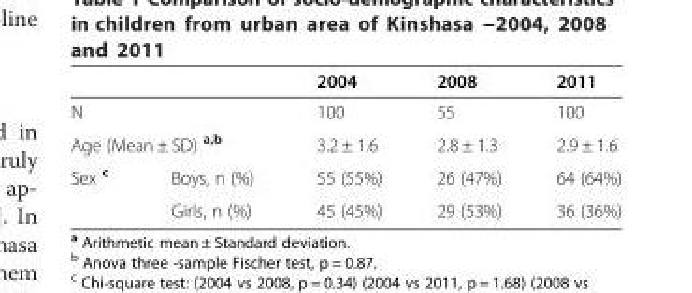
<table><thead><tr><td></td><td></td><td>2004</td><td>2008</td><td>2011</td></tr></thead><tbody><tr><td colspan="2">N</td><td>100</td><td>55</td><td>100</td></tr><tr><td colspan="2">Age (Mean ± SD) <sup>a,b</sup></td><td>3.2 ± 1.6</td><td>2.8 ± 1.3</td><td>2.9 ± 1.6</td></tr><tr><td rowspan="2">Sex <sup>c</sup></td><td>Boys, n (%)</td><td>55 (55%)</td><td>26 (47%)</td><td>64 (64%)</td></tr><tr><td>Girls, n (%)</td><td>45 (45%)</td><td>29 (53%)</td><td>36 (36%)</td></tr></tbody></table>